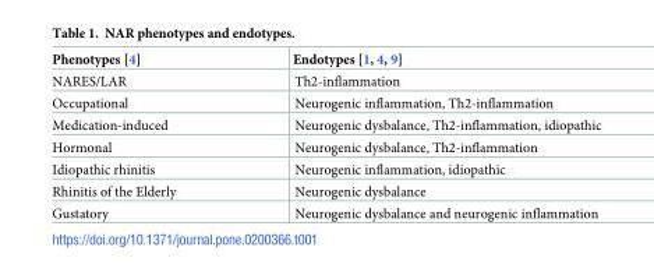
<table><thead><tr><td>Phenotypes [4]</td><td>Endotypes [1, 4, 9]</td></tr></thead><tbody><tr><td>NARES/LAR</td><td>Th2-inflammation</td></tr><tr><td>Occupational</td><td>Neurogenic inflammation, Th2-inflammation</td></tr><tr><td>Medication-induced</td><td>Neurogenic dysbalance, Th2-inflammation, idiopathic</td></tr><tr><td>Hormonal</td><td>Neurogenic dysbalance, Th2-inflammation</td></tr><tr><td>Idiopathic rhinitis</td><td>Neurogenic inflammation, idiopathic</td></tr><tr><td>Rhinitis of the Elderly</td><td>Neurogenic dysbalance</td></tr><tr><td>Gustatory</td><td>Neurogenic dysbalance and neurogenic inflammation</td></tr></tbody></table>